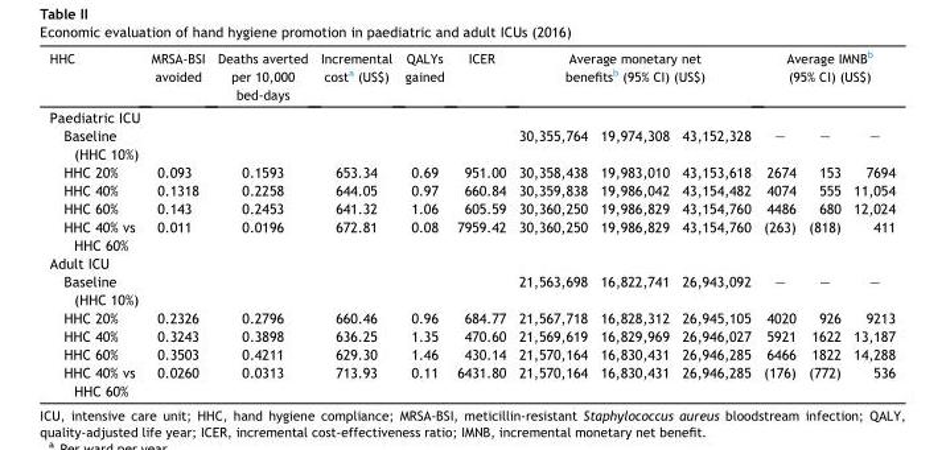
<table><thead><tr><td>HHC</td><td>MRSA-BSI avoided</td><td>Deaths averted per 10,000 bed-days</td><td>Incremental cost<sup>a</sup> (US$)</td><td>QALYs gained</td><td>ICER</td><td colspan="3">Average monetary net benefits<sup>b</sup> (95% CI) (US$)</td><td colspan="3">Average IMNB<sup>b</sup> (95% CI) (US$)</td></tr><tr><td colspan="12">Paediatric ICU</td></tr><tr><td>Baseline (HHC 10%)</td><td></td><td></td><td></td><td></td><td></td><td>30,355,764</td><td>19,974,308</td><td>43,152,328</td><td>–</td><td>–</td><td>–</td></tr></thead><tbody><tr><td>HHC 20%</td><td>0.093</td><td>0.1593</td><td>653.34</td><td>0.69</td><td>951.00</td><td>30,358,438</td><td>19,983,010</td><td>43,153,618</td><td>2674</td><td>153</td><td>7694</td></tr><tr><td>HHC 40%</td><td>0.1318</td><td>0.2258</td><td>644.05</td><td>0.97</td><td>660.84</td><td>30,359,838</td><td>19,986,042</td><td>43,154,482</td><td>4074</td><td>555</td><td>11,054</td></tr><tr><td>HHC 60%</td><td>0.143</td><td>0.2453</td><td>641.32</td><td>1.06</td><td>605.59</td><td>30,360,250</td><td>19,986,829</td><td>43,154,760</td><td>4486</td><td>680</td><td>12,024</td></tr><tr><td>HHC 40% vs HHC 60%</td><td>0.011</td><td>0.0196</td><td>672.81</td><td>0.08</td><td>7959.42</td><td>30,360,250</td><td>19,986,829</td><td>43,154,760</td><td>(263)</td><td>(818)</td><td>411</td></tr><tr><td colspan="12">Adult ICU</td></tr><tr><td>Baseline (HHC 10%)</td><td></td><td></td><td></td><td></td><td></td><td>21,563,698</td><td>16,822,741</td><td>26,943,092</td><td>–</td><td>–</td><td>–</td></tr><tr><td>HHC 20%</td><td>0.2326</td><td>0.2796</td><td>660.46</td><td>0.96</td><td>684.77</td><td>21,567,718</td><td>16,828,312</td><td>26,945,105</td><td>4020</td><td>926</td><td>9213</td></tr><tr><td>HHC 40%</td><td>0.3243</td><td>0.3898</td><td>636.25</td><td>1.35</td><td>470.60</td><td>21,569,619</td><td>16,829,969</td><td>26,946,027</td><td>5921</td><td>1622</td><td>13,187</td></tr><tr><td>HHC 60%</td><td>0.3503</td><td>0.4211</td><td>629.30</td><td>1.46</td><td>430.14</td><td>21,570,164</td><td>16,830,431</td><td>26,946,285</td><td>6466</td><td>1822</td><td>14,288</td></tr><tr><td>HHC 40% vs HHC 60%</td><td>0.0260</td><td>0.0313</td><td>713.93</td><td>0.11</td><td>6431.80</td><td>21,570,164</td><td>16,830,431</td><td>26,946,285</td><td>(176)</td><td>(772)</td><td>536</td></tr></tbody></table>